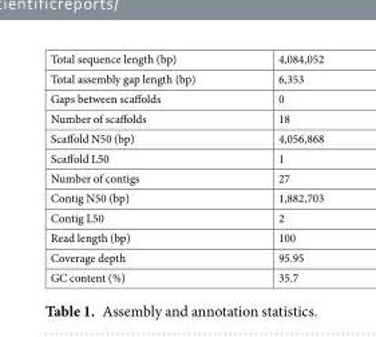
<table><tbody><tr><td>Total sequence length (bp)</td><td>4,084,052</td></tr><tr><td>Total assembly gap length (bp)</td><td>6,353</td></tr><tr><td>Gaps between scaffolds</td><td>0</td></tr><tr><td>Number of scaffolds</td><td>18</td></tr><tr><td>Scaffold N50 (bp)</td><td>4,056,868</td></tr><tr><td>Scaffold L50</td><td>1</td></tr><tr><td>Number of contigs</td><td>27</td></tr><tr><td>Contig N50 (bp)</td><td>1,882,703</td></tr><tr><td>Contig L50</td><td>2</td></tr><tr><td>Read length (bp)</td><td>100</td></tr><tr><td>Coverage depth</td><td>95.95</td></tr><tr><td>GC content (%)</td><td>35.7</td></tr></tbody></table>